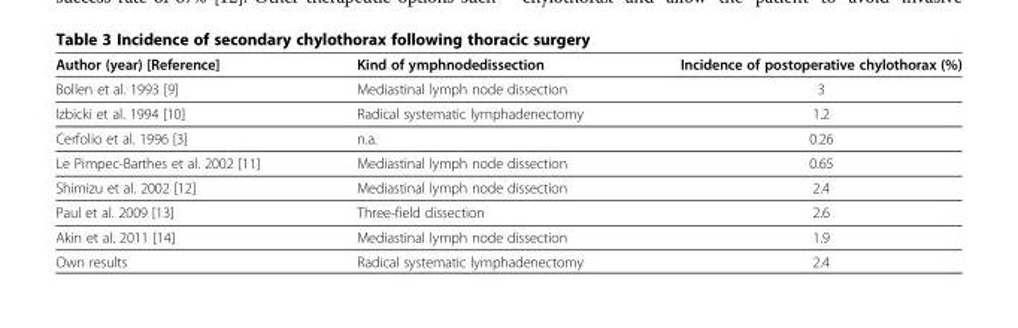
<table><thead><tr><td>Author (year) [Reference]</td><td>Kind of ymphnodedissection</td><td>Incidence of postoperative chylothorax (%)</td></tr></thead><tbody><tr><td>Bollen et al. 1993 [9]</td><td>Mediastinal lymph node dissection</td><td>3</td></tr><tr><td>Izbicki et al. 1994 [10]</td><td>Radical systematic lymphadenectomy</td><td>1.2</td></tr><tr><td>Cerfolio et al. 1996 [3]</td><td>n.a.</td><td>0.26</td></tr><tr><td>Le Pimpec-Barthes et al. 2002 [11]</td><td>Mediastinal lymph node dissection</td><td>0.65</td></tr><tr><td>Shimizu et al. 2002 [12]</td><td>Mediastinal lymph node dissection</td><td>2.4</td></tr><tr><td>Paul et al. 2009 [13]</td><td>Three-field dissection</td><td>2.6</td></tr><tr><td>Akin et al. 2011 [14]</td><td>Mediastinal lymph node dissection</td><td>1.9</td></tr><tr><td>Own results</td><td>Radical systematic lymphadenectomy</td><td>2.4</td></tr></tbody></table>